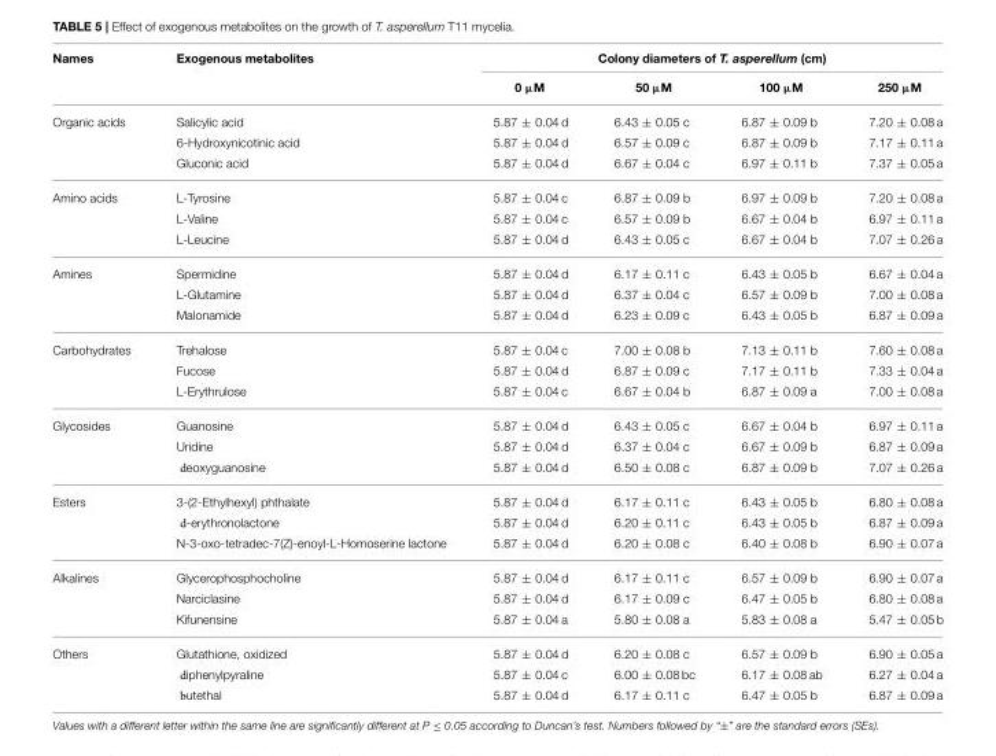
<table><thead><tr><td rowspan="2">Names</td><td rowspan="2">Exogenous metabolites</td><td colspan="4">Colony diameters of T. asperellum (cm)</td></tr><tr><td>0 µM</td><td>50 µM</td><td>100 µM</td><td>250 µM</td></tr></thead><tbody><tr><td rowspan="3">Organic acids</td><td>Salicylic acid</td><td>5.87 ± 0.04 d</td><td>6.43 ± 0.05 c</td><td>6.87 ± 0.09 b</td><td>7.20 ± 0.08 a</td></tr><tr><td>6-Hydroxynicotinic acid</td><td>5.87 ± 0.04 d</td><td>6.57 ± 0.09 c</td><td>6.87 ± 0.09 b</td><td>7.17 ± 0.11 a</td></tr><tr><td>Gluconic acid</td><td>5.87 ± 0.04 d</td><td>6.67 ± 0.04 c</td><td>6.97 ± 0.11 b</td><td>7.37 ± 0.05 a</td></tr><tr><td rowspan="3">Amino acids</td><td>L-Tyrosine</td><td>5.87 ± 0.04 c</td><td>6.87 ± 0.09 b</td><td>6.97 ± 0.09 b</td><td>7.20 ± 0.08 a</td></tr><tr><td>L-Valine</td><td>5.87 ± 0.04 c</td><td>6.57 ± 0.09 b</td><td>6.67 ± 0.04 b</td><td>6.97 ± 0.11 a</td></tr><tr><td>L-Leucine</td><td>5.87 ± 0.04 d</td><td>6.43 ± 0.05 c</td><td>6.67 ± 0.04 b</td><td>7.07 ± 0.26 a</td></tr><tr><td rowspan="3">Amines</td><td>Spermidine</td><td>5.87 ± 0.04 d</td><td>6.17 ± 0.11 c</td><td>6.43 ± 0.05 b</td><td>6.67 ± 0.04 a</td></tr><tr><td>L-Glutamine</td><td>5.87 ± 0.04 d</td><td>6.37 ± 0.04 c</td><td>6.57 ± 0.09 b</td><td>7.00 ± 0.08 a</td></tr><tr><td>Malonamide</td><td>5.87 ± 0.04 d</td><td>6.23 ± 0.09 c</td><td>6.43 ± 0.05 b</td><td>6.87 ± 0.09 a</td></tr><tr><td rowspan="3">Carbohydrates</td><td>Trehalose</td><td>5.87 ± 0.04 c</td><td>7.00 ± 0.08 b</td><td>7.13 ± 0.11 b</td><td>7.60 ± 0.08 a</td></tr><tr><td>Fucose</td><td>5.87 ± 0.04 d</td><td>6.87 ± 0.09 c</td><td>7.17 ± 0.11 b</td><td>7.33 ± 0.04 a</td></tr><tr><td>L-Erythrulose</td><td>5.87 ± 0.04 c</td><td>6.67 ± 0.04 b</td><td>6.87 ± 0.09 a</td><td>7.00 ± 0.08 a</td></tr><tr><td rowspan="3">Glycosides</td><td>Guanosine</td><td>5.87 ± 0.04 d</td><td>6.43 ± 0.05 c</td><td>6.67 ± 0.04 b</td><td>6.97 ± 0.11 a</td></tr><tr><td>Uridine</td><td>5.87 ± 0.04 d</td><td>6.37 ± 0.04 c</td><td>6.67 ± 0.09 b</td><td>6.87 ± 0.09 a</td></tr><tr><td>deoxyguanosine</td><td>5.87 ± 0.04 d</td><td>6.50 ± 0.08 c</td><td>6.87 ± 0.09 b</td><td>7.07 ± 0.26 a</td></tr><tr><td rowspan="3">Esters</td><td>3-(2-Ethylhexyl) phthalate</td><td>5.87 ± 0.04 d</td><td>6.17 ± 0.11 c</td><td>6.43 ± 0.05 b</td><td>6.80 ± 0.08 a</td></tr><tr><td>d-erythronolactone</td><td>5.87 ± 0.04 d</td><td>6.20 ± 0.11 c</td><td>6.43 ± 0.05 b</td><td>6.87 ± 0.09 a</td></tr><tr><td>N-3-oxo-tetradec-7(Z)-enoyl-L-Homoserine lactone</td><td>5.87 ± 0.04 d</td><td>6.20 ± 0.08 c</td><td>6.40 ± 0.08 b</td><td>6.90 ± 0.07 a</td></tr><tr><td rowspan="3">Alkalines</td><td>Glycerophosphocholine</td><td>5.87 ± 0.04 d</td><td>6.17 ± 0.11 c</td><td>6.57 ± 0.09 b</td><td>6.90 ± 0.07 a</td></tr><tr><td>Narciclasine</td><td>5.87 ± 0.04 d</td><td>6.17 ± 0.09 c</td><td>6.47 ± 0.05 b</td><td>6.80 ± 0.08 a</td></tr><tr><td>Kifunensine</td><td>5.87 ± 0.04 a</td><td>5.80 ± 0.08 a</td><td>5.83 ± 0.08 a</td><td>5.47 ± 0.05 b</td></tr><tr><td rowspan="3">Others</td><td>Glutathione, oxidized</td><td>5.87 ± 0.04 d</td><td>6.20 ± 0.08 c</td><td>6.57 ± 0.09 b</td><td>6.90 ± 0.05 a</td></tr><tr><td>diphenylpyraline</td><td>5.87 ± 0.04 c</td><td>6.00 ± 0.08 bc</td><td>6.17 ± 0.08 ab</td><td>6.27 ± 0.04 a</td></tr><tr><td>butethal</td><td>5.87 ± 0.04 d</td><td>6.17 ± 0.11 c</td><td>6.47 ± 0.05 b</td><td>6.87 ± 0.09 a</td></tr></tbody></table>